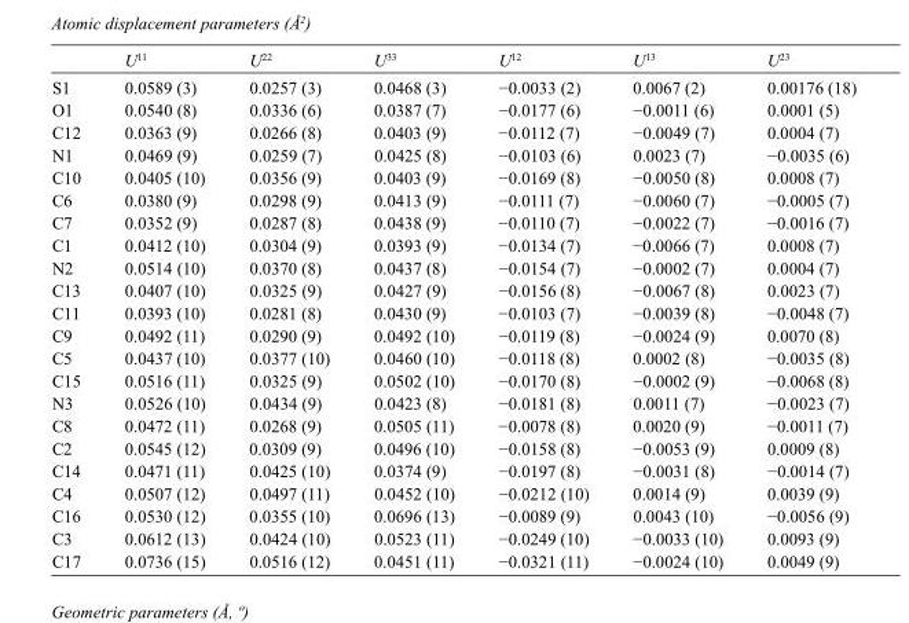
<table><thead><tr><td></td><td>U<sup>11</sup></td><td>U<sup>22</sup></td><td>U<sup>33</sup></td><td>U<sup>12</sup></td><td>U<sup>13</sup></td><td>U<sup>23</sup></td></tr></thead><tbody><tr><td>S1</td><td>0.0589 (3)</td><td>0.0257 (3)</td><td>0.0468 (3)</td><td>−0.0033 (2)</td><td>0.0067 (2)</td><td>0.00176 (18)</td></tr><tr><td>O1</td><td>0.0540 (8)</td><td>0.0336 (6)</td><td>0.0387 (7)</td><td>−0.0177 (6)</td><td>−0.0011 (6)</td><td>0.0001 (5)</td></tr><tr><td>C12</td><td>0.0363 (9)</td><td>0.0266 (8)</td><td>0.0403 (9)</td><td>−0.0112 (7)</td><td>−0.0049 (7)</td><td>0.0004 (7)</td></tr><tr><td>N1</td><td>0.0469 (9)</td><td>0.0259 (7)</td><td>0.0425 (8)</td><td>−0.0103 (6)</td><td>0.0023 (7)</td><td>−0.0035 (6)</td></tr><tr><td>C10</td><td>0.0405 (10)</td><td>0.0356 (9)</td><td>0.0403 (9)</td><td>−0.0169 (8)</td><td>−0.0050 (8)</td><td>0.0008 (7)</td></tr><tr><td>C6</td><td>0.0380 (9)</td><td>0.0298 (9)</td><td>0.0413 (9)</td><td>−0.0111 (7)</td><td>−0.0060 (7)</td><td>−0.0005 (7)</td></tr><tr><td>C7</td><td>0.0352 (9)</td><td>0.0287 (8)</td><td>0.0438 (9)</td><td>−0.0110 (7)</td><td>−0.0022 (7)</td><td>−0.0016 (7)</td></tr><tr><td>C1</td><td>0.0412 (10)</td><td>0.0304 (9)</td><td>0.0393 (9)</td><td>−0.0134 (7)</td><td>−0.0066 (7)</td><td>0.0008 (7)</td></tr><tr><td>N2</td><td>0.0514 (10)</td><td>0.0370 (8)</td><td>0.0437 (8)</td><td>−0.0154 (7)</td><td>−0.0002 (7)</td><td>0.0004 (7)</td></tr><tr><td>C13</td><td>0.0407 (10)</td><td>0.0325 (9)</td><td>0.0427 (9)</td><td>−0.0156 (8)</td><td>−0.0067 (8)</td><td>0.0023 (7)</td></tr><tr><td>C11</td><td>0.0393 (10)</td><td>0.0281 (8)</td><td>0.0430 (9)</td><td>−0.0103 (7)</td><td>−0.0039 (8)</td><td>−0.0048 (7)</td></tr><tr><td>C9</td><td>0.0492 (11)</td><td>0.0290 (9)</td><td>0.0492 (10)</td><td>−0.0119 (8)</td><td>−0.0024 (9)</td><td>0.0070 (8)</td></tr><tr><td>C5</td><td>0.0437 (10)</td><td>0.0377 (10)</td><td>0.0460 (10)</td><td>−0.0118 (8)</td><td>0.0002 (8)</td><td>−0.0035 (8)</td></tr><tr><td>C15</td><td>0.0516 (11)</td><td>0.0325 (9)</td><td>0.0502 (10)</td><td>−0.0170 (8)</td><td>−0.0002 (9)</td><td>−0.0068 (8)</td></tr><tr><td>N3</td><td>0.0526 (10)</td><td>0.0434 (9)</td><td>0.0423 (8)</td><td>−0.0181 (8)</td><td>0.0011 (7)</td><td>−0.0023 (7)</td></tr><tr><td>C8</td><td>0.0472 (11)</td><td>0.0268 (9)</td><td>0.0505 (11)</td><td>−0.0078 (8)</td><td>0.0020 (9)</td><td>−0.0011 (7)</td></tr><tr><td>C2</td><td>0.0545 (12)</td><td>0.0309 (9)</td><td>0.0496 (10)</td><td>−0.0158 (8)</td><td>−0.0053 (9)</td><td>0.0009 (8)</td></tr><tr><td>C14</td><td>0.0471 (11)</td><td>0.0425 (10)</td><td>0.0374 (9)</td><td>−0.0197 (8)</td><td>−0.0031 (8)</td><td>−0.0014 (7)</td></tr><tr><td>C4</td><td>0.0507 (12)</td><td>0.0497 (11)</td><td>0.0452 (10)</td><td>−0.0212 (10)</td><td>0.0014 (9)</td><td>0.0039 (9)</td></tr><tr><td>C16</td><td>0.0530 (12)</td><td>0.0355 (10)</td><td>0.0696 (13)</td><td>−0.0089 (9)</td><td>0.0043 (10)</td><td>−0.0056 (9)</td></tr><tr><td>C3</td><td>0.0612 (13)</td><td>0.0424 (10)</td><td>0.0523 (11)</td><td>−0.0249 (10)</td><td>−0.0033 (10)</td><td>0.0093 (9)</td></tr><tr><td>C17</td><td>0.0736 (15)</td><td>0.0516 (12)</td><td>0.0451 (11)</td><td>−0.0321 (11)</td><td>−0.0024 (10)</td><td>0.0049 (9)</td></tr></tbody></table>